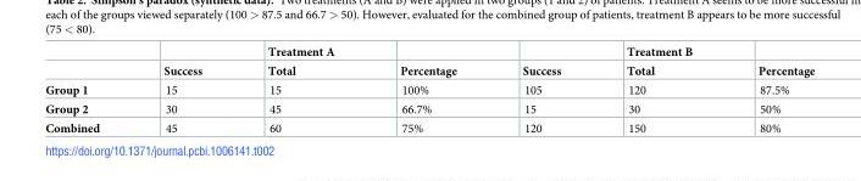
<table><thead><tr><td rowspan="2"></td><td rowspan="2">Success</td><td rowspan="2">Treatment A Total</td><td rowspan="2">Percentage</td><td rowspan="2">Success</td><td rowspan="2">Treatment B Total</td><td rowspan="2">Percentage</td></tr><tr></tr></thead><tbody><tr><td>Group 1</td><td>15</td><td>15</td><td>100%</td><td>105</td><td>120</td><td>87.5%</td></tr><tr><td>Group 2</td><td>30</td><td>45</td><td>66.7%</td><td>15</td><td>30</td><td>50%</td></tr><tr><td>Combined</td><td>45</td><td>60</td><td>75%</td><td>120</td><td>150</td><td>80%</td></tr></tbody></table>